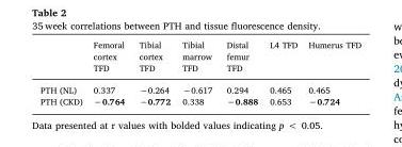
<table><thead><tr><td></td><td>Femoral cortex TFD</td><td>Tibial cortex TFD</td><td>Tibial marrow TFD</td><td>Distal femur TFD</td><td>L4 TFD</td><td>Humerus TFD</td></tr></thead><tbody><tr><td>PTH (NL)</td><td>0.337</td><td>−0.264</td><td>−0.617</td><td>0.294</td><td>0.465</td><td>0.465</td></tr><tr><td>PTH (CKD)</td><td>−0.764</td><td>−0.772</td><td>0.338</td><td>−0.888</td><td>0.653</td><td>−0.724</td></tr></tbody></table>